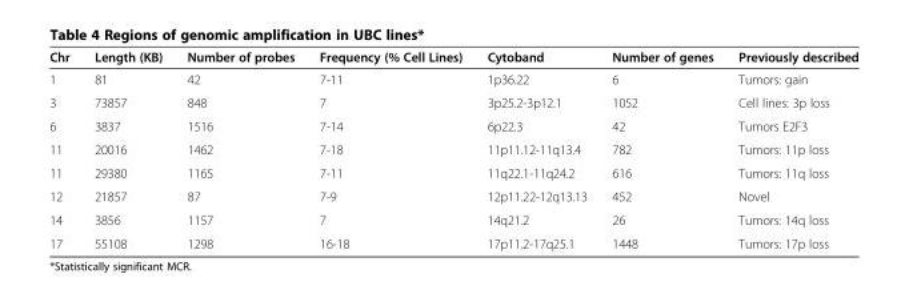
<table><thead><tr><td>Chr</td><td>Length (KB)</td><td>Number of probes</td><td>Frequency (% Cell Lines)</td><td>Cytoband</td><td>Number of genes</td><td>Previously described</td></tr></thead><tbody><tr><td>1</td><td>81</td><td>42</td><td>7-11</td><td>1p36.22</td><td>6</td><td>Tumors: gain</td></tr><tr><td>3</td><td>73857</td><td>848</td><td>7</td><td>3p25.2-3p12.1</td><td>1052</td><td>Cell lines: 3p loss</td></tr><tr><td>6</td><td>3837</td><td>1516</td><td>7-14</td><td>6p22.3</td><td>42</td><td>Tumors E2F3</td></tr><tr><td>11</td><td>20016</td><td>1462</td><td>7-18</td><td>11p11.12-11q13.4</td><td>782</td><td>Tumors: 11p loss</td></tr><tr><td>11</td><td>29380</td><td>1165</td><td>7-11</td><td>11q22.1-11q24.2</td><td>616</td><td>Tumors: 11q loss</td></tr><tr><td>12</td><td>21857</td><td>87</td><td>7-9</td><td>12p11.22-12q13.13</td><td>452</td><td>Novel</td></tr><tr><td>14</td><td>3856</td><td>1157</td><td>7</td><td>14q21.2</td><td>26</td><td>Tumors: 14q loss</td></tr><tr><td>17</td><td>55108</td><td>1298</td><td>16-18</td><td>17p11.2-17q25.1</td><td>1448</td><td>Tumors: 17p loss</td></tr></tbody></table>